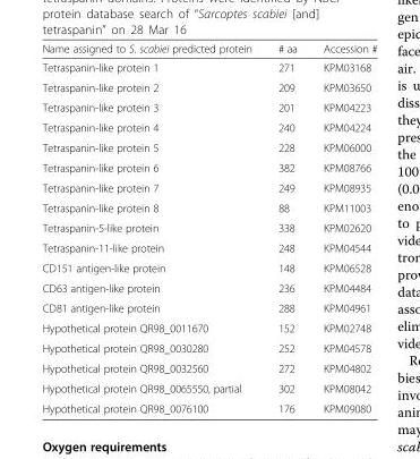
<table><thead><tr><td>Name assigned to S. scabiei predicted protein</td><td># aa</td><td>Accession #</td></tr></thead><tbody><tr><td>Tetraspanin-like protein 1</td><td>271</td><td>KPM03168</td></tr><tr><td>Tetraspanin-like protein 2</td><td>209</td><td>KPM03650</td></tr><tr><td>Tetraspanin-like protein 3</td><td>201</td><td>KPM04223</td></tr><tr><td>Tetraspanin-like protein 4</td><td>240</td><td>KPM04224</td></tr><tr><td>Tetraspanin-like protein 5</td><td>228</td><td>KPM06000</td></tr><tr><td>Tetraspanin-like protein 6</td><td>382</td><td>KPM08766</td></tr><tr><td>Tetraspanin-like protein 7</td><td>249</td><td>KPM08935</td></tr><tr><td>Tetraspanin-like protein 8</td><td>88</td><td>KPM11003</td></tr><tr><td>Tetraspanin-5-like protein</td><td>338</td><td>KPM02620</td></tr><tr><td>Tetraspanin-11-like protein</td><td>248</td><td>KPM04544</td></tr><tr><td>CD151 antigen-like protein</td><td>148</td><td>KPM06528</td></tr><tr><td>CD63 antigen-like protein</td><td>236</td><td>KPM04484</td></tr><tr><td>CD81 antigen-like protein</td><td>288</td><td>KPM04961</td></tr><tr><td>Hypothetical protein QR98_0011670</td><td>152</td><td>KPM02748</td></tr><tr><td>Hypothetical protein QR98_0030280</td><td>252</td><td>KPM04578</td></tr><tr><td>Hypothetical protein QR98_0032560</td><td>272</td><td>KPM04802</td></tr><tr><td>Hypothetical protein QR98_0065550, partial</td><td>302</td><td>KPM08042</td></tr><tr><td>Hypothetical protein QR98_0076100</td><td>176</td><td>KPM09080</td></tr></tbody></table>